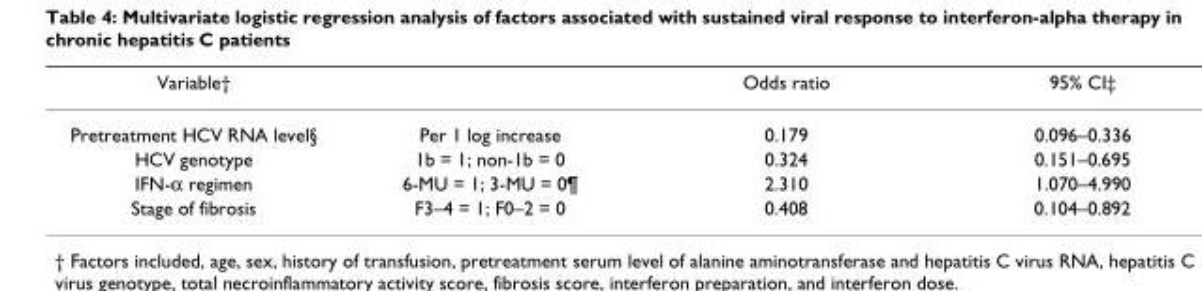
<table><thead><tr><td>Variable†</td><td></td><td>Odds ratio</td><td>95% CI‡</td></tr></thead><tbody><tr><td>Pretreatment HCV RNA level§</td><td>Per 1 log increase</td><td>0.179</td><td>0.096–0.336</td></tr><tr><td>HCV genotype</td><td>1b = 1; non-1b = 0</td><td>0.324</td><td>0.151–0.695</td></tr><tr><td>IFN-α regimen</td><td>6-MU = 1; 3-MU = 0¶</td><td>2.310</td><td>1.070–4.990</td></tr><tr><td>Stage of fibrosis</td><td>F3–4 = 1; F0–2 = 0</td><td>0.408</td><td>0.104–0.892</td></tr></tbody></table>